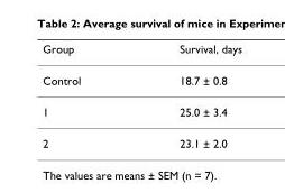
<table><thead><tr><td>Group</td><td>Survival, days</td></tr></thead><tbody><tr><td>Control</td><td>18.7 ± 0.8</td></tr><tr><td>1</td><td>25.0 ± 3.4</td></tr><tr><td>2</td><td>23.1 ± 2.0</td></tr></tbody></table>